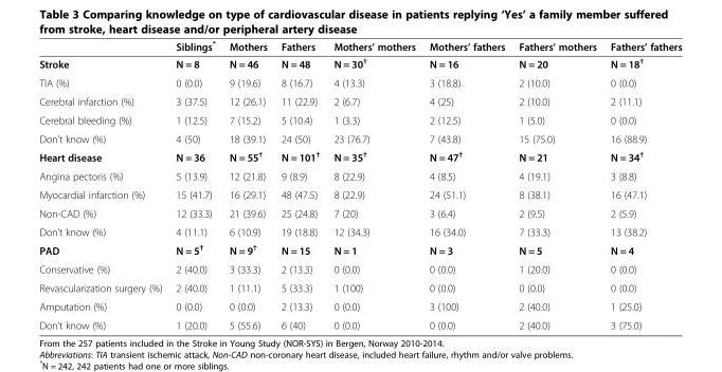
<table><thead><tr><td></td><td>Siblings*</td><td>Mothers</td><td>Fathers</td><td>Mothers’ mothers</td><td>Mothers’ fathers</td><td>Fathers’ mothers</td><td>Fathers’ fathers</td></tr></thead><tbody><tr><td>Stroke</td><td>N = 8</td><td>N = 46</td><td>N = 48</td><td>N = 30<sup>†</sup></td><td>N = 16</td><td>N = 20</td><td>N = 18<sup>†</sup></td></tr><tr><td>TIA (%)</td><td>0 (0.0)</td><td>9 (19.6)</td><td>8 (16.7)</td><td>4 (13.3)</td><td>3 (18.8)</td><td>2 (10.0)</td><td>0 (0.0)</td></tr><tr><td>Cerebral infarction (%)</td><td>3 (37.5)</td><td>12 (26.1)</td><td>11 (22.9)</td><td>2 (6.7)</td><td>4 (25)</td><td>2 (10.0)</td><td>2 (11.1)</td></tr><tr><td>Cerebral bleeding (%)</td><td>1 (12.5)</td><td>7 (15.2)</td><td>5 (10.4)</td><td>1 (3.3)</td><td>2 (12.5)</td><td>1 (5.0)</td><td>0 (0.0)</td></tr><tr><td>Don’t know (%)</td><td>4 (50)</td><td>18 (39.1)</td><td>24 (50)</td><td>23 (76.7)</td><td>7 (43.8)</td><td>15 (75.0)</td><td>16 (88.9)</td></tr><tr><td>Heart disease</td><td>N = 36</td><td>N = 55<sup>†</sup></td><td>N = 101<sup>†</sup></td><td>N = 35<sup>†</sup></td><td>N = 47<sup>†</sup></td><td>N = 21</td><td>N = 34<sup>†</sup></td></tr><tr><td>Angina pectoris (%)</td><td>5 (13.9)</td><td>12 (21.8)</td><td>9 (8.9)</td><td>8 (22.9)</td><td>4 (8.5)</td><td>4 (19.1)</td><td>3 (8.8)</td></tr><tr><td>Myocardial infarction (%)</td><td>15 (41.7)</td><td>16 (29.1)</td><td>48 (47.5)</td><td>8 (22.9)</td><td>24 (51.1)</td><td>8 (38.1)</td><td>16 (47.1)</td></tr><tr><td>Non-CAD (%)</td><td>12 (33.3)</td><td>21 (39.6)</td><td>25 (24.8)</td><td>7 (20)</td><td>3 (6.4)</td><td>2 (9.5)</td><td>2 (5.9)</td></tr><tr><td>Don’t know (%)</td><td>4 (11.1)</td><td>6 (10.9)</td><td>19 (18.8)</td><td>12 (34.3)</td><td>16 (34.0)</td><td>7 (33.3)</td><td>13 (38.2)</td></tr><tr><td>PAD</td><td>N = 5<sup>†</sup></td><td>N = 9<sup>†</sup></td><td>N = 15</td><td>N = 1</td><td>N = 3</td><td>N = 5</td><td>N = 4</td></tr><tr><td>Conservative (%)</td><td>2 (40.0)</td><td>3 (33.3)</td><td>2 (13.3)</td><td>0 (0.0)</td><td>0 (0.0)</td><td>1 (20.0)</td><td>0 (0.0)</td></tr><tr><td>Revascularization surgery (%)</td><td>2 (40.0)</td><td>1 (11.1)</td><td>5 (33.3)</td><td>1 (100)</td><td>0 (0.0)</td><td>0 (0.0)</td><td>0 (0.0)</td></tr><tr><td>Amputation (%)</td><td>0 (0.0)</td><td>0 (0.0)</td><td>2 (13.3)</td><td>0 (0.0)</td><td>3 (100)</td><td>2 (40.0)</td><td>1 (25.0)</td></tr><tr><td>Don’t know (%)</td><td>1 (20.0)</td><td>5 (55.6)</td><td>6 (40)</td><td>0 (0.0)</td><td>0 (0.0)</td><td>2 (40.0)</td><td>3 (75.0)</td></tr></tbody></table>